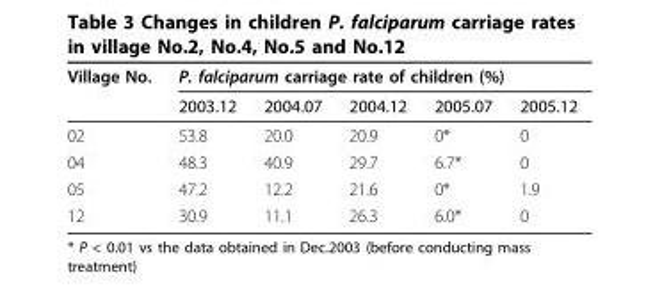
<table><thead><tr><td rowspan="2">Village No.</td><td colspan="5">P. falciparum carriage rate of children (%)</td></tr><tr><td>2003.12</td><td>2004.07</td><td>2004.12</td><td>2005.07</td><td>2005.12</td></tr></thead><tbody><tr><td>02</td><td>53.8</td><td>20.0</td><td>20.9</td><td>0*</td><td>0</td></tr><tr><td>04</td><td>48.3</td><td>40.9</td><td>29.7</td><td>6.7*</td><td>0</td></tr><tr><td>05</td><td>47.2</td><td>12.2</td><td>21.6</td><td>0*</td><td>1.9</td></tr><tr><td>12</td><td>30.9</td><td>11.1</td><td>26.3</td><td>6.0*</td><td>0</td></tr></tbody></table>